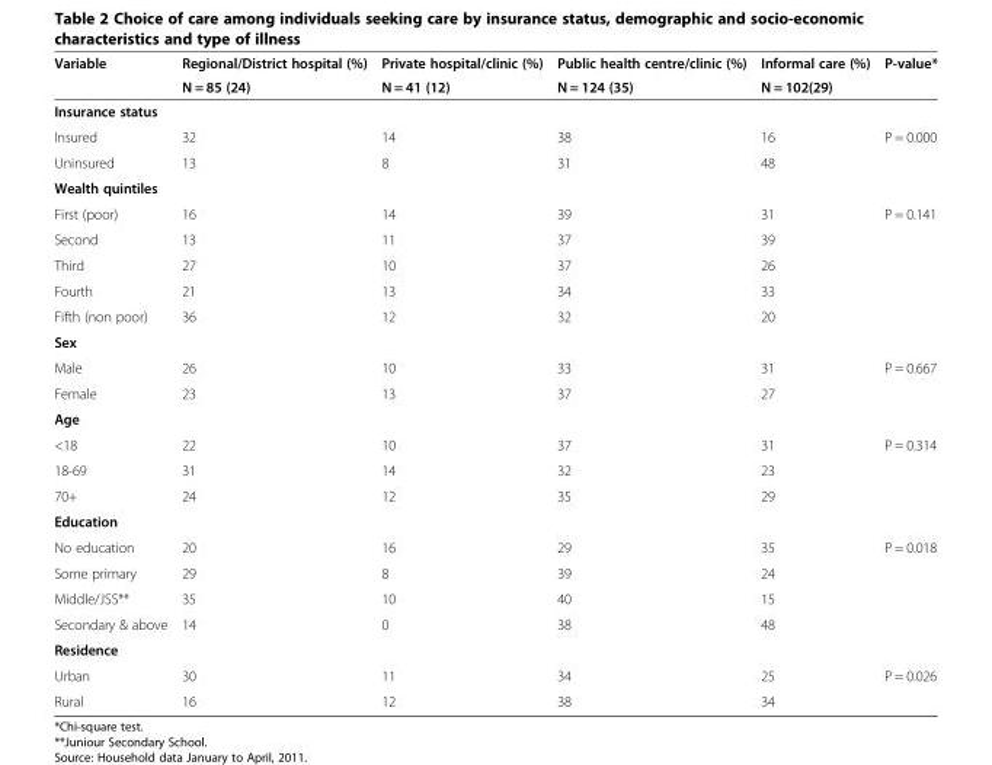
<table><thead><tr><td rowspan="2">Variable</td><td rowspan="2">Regional/District hospital (%) N = 85 (24)</td><td rowspan="2">Private hospital/clinic (%) N = 41 (12)</td><td rowspan="2">Public health centre/clinic (%) N = 124 (35)</td><td rowspan="2">Informal care (%) N = 102(29)</td><td rowspan="2">P-value*</td></tr><tr></tr></thead><tbody><tr><td colspan="6">Insurance status</td></tr><tr><td>Insured</td><td>32</td><td>14</td><td>38</td><td>16</td><td>P = 0.000</td></tr><tr><td>Uninsured</td><td>13</td><td>8</td><td>31</td><td>48</td><td></td></tr><tr><td colspan="6">Wealth quintiles</td></tr><tr><td>First (poor)</td><td>16</td><td>14</td><td>39</td><td>31</td><td>P = 0.141</td></tr><tr><td>Second</td><td>13</td><td>11</td><td>37</td><td>39</td><td></td></tr><tr><td>Third</td><td>27</td><td>10</td><td>37</td><td>26</td><td></td></tr><tr><td>Fourth</td><td>21</td><td>13</td><td>34</td><td>33</td><td></td></tr><tr><td>Fifth (non poor)</td><td>36</td><td>12</td><td>32</td><td>20</td><td></td></tr><tr><td colspan="6">Sex</td></tr><tr><td>Male</td><td>26</td><td>10</td><td>33</td><td>31</td><td>P = 0.667</td></tr><tr><td>Female</td><td>23</td><td>13</td><td>37</td><td>27</td><td></td></tr><tr><td colspan="6">Age</td></tr><tr><td>&lt;18</td><td>22</td><td>10</td><td>37</td><td>31</td><td>P = 0.314</td></tr><tr><td>18-69</td><td>31</td><td>14</td><td>32</td><td>23</td><td></td></tr><tr><td>70+</td><td>24</td><td>12</td><td>35</td><td>29</td><td></td></tr><tr><td colspan="6">Education</td></tr><tr><td>No education</td><td>20</td><td>16</td><td>29</td><td>35</td><td>P = 0.018</td></tr><tr><td>Some primary</td><td>29</td><td>8</td><td>39</td><td>24</td><td></td></tr><tr><td>Middle/JSS**</td><td>35</td><td>10</td><td>40</td><td>15</td><td></td></tr><tr><td>Secondary &amp; above</td><td>14</td><td>0</td><td>38</td><td>48</td><td></td></tr><tr><td colspan="6">Residence</td></tr><tr><td>Urban</td><td>30</td><td>11</td><td>34</td><td>25</td><td>P = 0.026</td></tr><tr><td>Rural</td><td>16</td><td>12</td><td>38</td><td>34</td><td></td></tr></tbody></table>